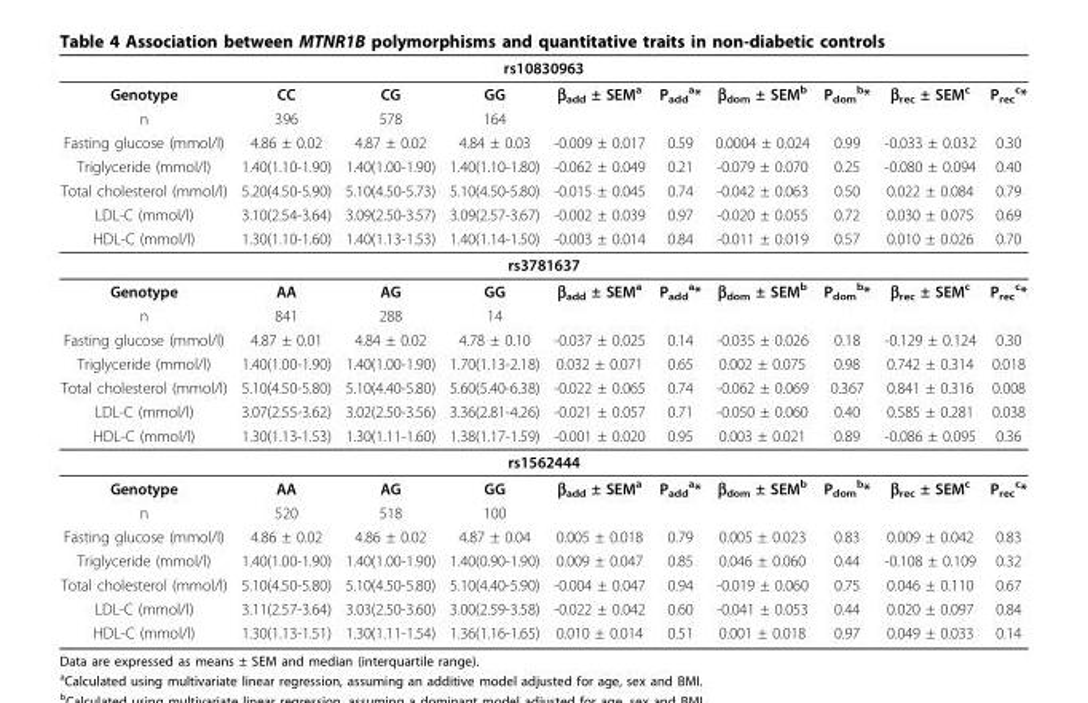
<table><thead><tr><td colspan="10">rs10830963</td></tr><tr><td>Genotype</td><td>CC</td><td>CG</td><td>GG</td><td>β<sub>add</sub> ± SEM<sup>a</sup></td><td>P<sub>add</sub> <sup>a</sup>*</td><td>β<sub>dom</sub> ± SEM<sup>b</sup></td><td>P<sub>dom</sub> <sup>b</sup>*</td><td>β<sub>rec</sub> ± SEM<sup>c</sup></td><td>P<sub>rec</sub> <sup>c</sup>*</td></tr></thead><tbody><tr><td>n</td><td>396</td><td>578</td><td>164</td><td></td><td></td><td></td><td></td><td></td><td></td></tr><tr><td>Fasting glucose (mmol/l)</td><td>4.86 ± 0.02</td><td>4.87 ± 0.02</td><td>4.84 ± 0.03</td><td>-0.009 ± 0.017</td><td>0.59</td><td>0.0004 ± 0.024</td><td>0.99</td><td>-0.033 ± 0.032</td><td>0.30</td></tr><tr><td>Triglyceride (mmol/l)</td><td>1.40(1.10-1.90)</td><td>1.40(1.00-1.90)</td><td>1.40(1.10-1.80)</td><td>-0.062 ± 0.049</td><td>0.21</td><td>-0.079 ± 0.070</td><td>0.25</td><td>-0.080 ± 0.094</td><td>0.40</td></tr><tr><td>Total cholesterol (mmol/l)</td><td>5.20(4.50-5.90)</td><td>5.10(4.50-5.73)</td><td>5.10(4.50-5.80)</td><td>-0.015 ± 0.045</td><td>0.74</td><td>-0.042 ± 0.063</td><td>0.50</td><td>0.022 ± 0.084</td><td>0.79</td></tr><tr><td>LDL-C (mmol/l)</td><td>3.10(2.54-3.64)</td><td>3.09(2.50-3.57)</td><td>3.09(2.57-3.67)</td><td>-0.002 ± 0.039</td><td>0.97</td><td>-0.020 ± 0.055</td><td>0.72</td><td>0.030 ± 0.075</td><td>0.69</td></tr><tr><td>HDL-C (mmol/l)</td><td>1.30(1.10-1.60)</td><td>1.40(1.13-1.53)</td><td>1.40(1.14-1.50)</td><td>-0.003 ± 0.014</td><td>0.84</td><td>-0.011 ± 0.019</td><td>0.57</td><td>0.010 ± 0.026</td><td>0.70</td></tr><tr><td colspan="10">rs3781637</td></tr><tr><td>Genotype</td><td>AA</td><td>AG</td><td>GG</td><td>β<sub>add</sub> ± SEM<sup>a</sup></td><td>P<sub>add</sub> <sup>a</sup>*</td><td>β<sub>dom</sub> ± SEM<sup>b</sup></td><td>P<sub>dom</sub> <sup>b</sup>*</td><td>β<sub>rec</sub> ± SEM<sup>c</sup></td><td>P<sub>rec</sub> <sup>c</sup>*</td></tr><tr><td>n</td><td>841</td><td>288</td><td>14</td><td></td><td></td><td></td><td></td><td></td><td></td></tr><tr><td>Fasting glucose (mmol/l)</td><td>4.87 ± 0.01</td><td>4.84 ± 0.02</td><td>4.78 ± 0.10</td><td>-0.037 ± 0.025</td><td>0.14</td><td>-0.035 ± 0.026</td><td>0.18</td><td>-0.129 ± 0.124</td><td>0.30</td></tr><tr><td>Triglyceride (mmol/l)</td><td>1.40(1.00-1.90)</td><td>1.40(1.00-1.90)</td><td>1.70(1.13-2.18)</td><td>0.032 ± 0.071</td><td>0.65</td><td>0.002 ± 0.075</td><td>0.98</td><td>0.742 ± 0.314</td><td>0.018</td></tr><tr><td>Total cholesterol (mmol/l)</td><td>5.10(4.50-5.80)</td><td>5.10(4.40-5.80)</td><td>5.60(5.40-6.38)</td><td>-0.022 ± 0.065</td><td>0.74</td><td>-0.062 ± 0.069</td><td>0.367</td><td>0.841 ± 0.316</td><td>0.008</td></tr><tr><td>LDL-C (mmol/l)</td><td>3.07(2.55-3.62)</td><td>3.02(2.50-3.56)</td><td>3.36(2.81-4.26)</td><td>-0.021 ± 0.057</td><td>0.71</td><td>-0.050 ± 0.060</td><td>0.40</td><td>0.585 ± 0.281</td><td>0.038</td></tr><tr><td>HDL-C (mmol/l)</td><td>1.30(1.13-1.53)</td><td>1.30(1.11-1.60)</td><td>1.38(1.17-1.59)</td><td>-0.001 ± 0.020</td><td>0.95</td><td>0.003 ± 0.021</td><td>0.89</td><td>-0.086 ± 0.095</td><td>0.36</td></tr><tr><td colspan="10">rs1562444</td></tr><tr><td>Genotype</td><td>AA</td><td>AG</td><td>GG</td><td>β<sub>add</sub> ± SEM<sup>a</sup></td><td>P<sub>add</sub> <sup>a</sup>*</td><td>β<sub>dom</sub> ± SEM<sup>b</sup></td><td>P<sub>dom</sub> <sup>b</sup>*</td><td>β<sub>rec</sub> ± SEM<sup>c</sup></td><td>P<sub>rec</sub> <sup>c</sup>*</td></tr><tr><td>n</td><td>520</td><td>518</td><td>100</td><td></td><td></td><td></td><td></td><td></td><td></td></tr><tr><td>Fasting glucose (mmol/l)</td><td>4.86 ± 0.02</td><td>4.86 ± 0.02</td><td>4.87 ± 0.04</td><td>0.005 ± 0.018</td><td>0.79</td><td>0.005 ± 0.023</td><td>0.83</td><td>0.009 ± 0.042</td><td>0.83</td></tr><tr><td>Triglyceride (mmol/l)</td><td>1.40(1.00-1.90)</td><td>1.40(1.00-1.90)</td><td>1.40(0.90-1.90)</td><td>0.009 ± 0.047</td><td>0.85</td><td>0.046 ± 0.060</td><td>0.44</td><td>-0.108 ± 0.109</td><td>0.32</td></tr><tr><td>Total cholesterol (mmol/l)</td><td>5.10(4.50-5.80)</td><td>5.10(4.50-5.80)</td><td>5.10(4.40-5.90)</td><td>-0.004 ± 0.047</td><td>0.94</td><td>-0.019 ± 0.060</td><td>0.75</td><td>0.046 ± 0.110</td><td>0.67</td></tr><tr><td>LDL-C (mmol/l)</td><td>3.11(2.57-3.64)</td><td>3.03(2.50-3.60)</td><td>3.00(2.59-3.58)</td><td>-0.022 ± 0.042</td><td>0.60</td><td>-0.041 ± 0.053</td><td>0.44</td><td>0.020 ± 0.097</td><td>0.84</td></tr><tr><td>HDL-C (mmol/l)</td><td>1.30(1.13-1.51)</td><td>1.30(1.11-1.54)</td><td>1.36(1.16-1.65)</td><td>0.010 ± 0.014</td><td>0.51</td><td>0.001 ± 0.018</td><td>0.97</td><td>0.049 ± 0.033</td><td>0.14</td></tr></tbody></table>